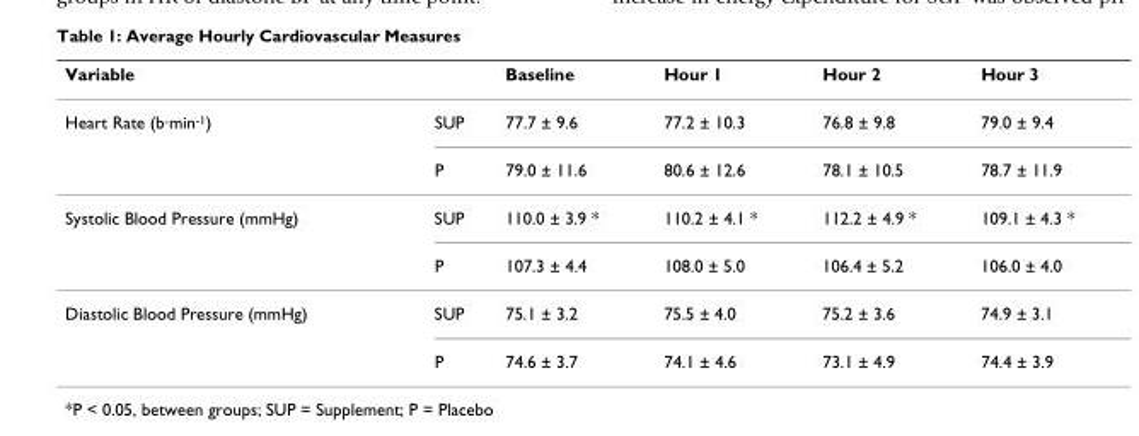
<table><thead><tr><td>Variable</td><td></td><td>Baseline</td><td>Hour 1</td><td>Hour 2</td><td>Hour 3</td></tr></thead><tbody><tr><td rowspan="2">Heart Rate (b·min<sup>-1</sup>)</td><td>SUP</td><td>77.7 ± 9.6</td><td>77.2 ± 10.3</td><td>76.8 ± 9.8</td><td>79.0 ± 9.4</td></tr><tr><td>P</td><td>79.0 ± 11.6</td><td>80.6 ± 12.6</td><td>78.1 ± 10.5</td><td>78.7 ± 11.9</td></tr><tr><td rowspan="2">Systolic Blood Pressure (mmHg)</td><td>SUP</td><td>110.0 ± 3.9 *</td><td>110.2 ± 4.1 *</td><td>112.2 ± 4.9 *</td><td>109.1 ± 4.3 *</td></tr><tr><td>P</td><td>107.3 ± 4.4</td><td>108.0 ± 5.0</td><td>106.4 ± 5.2</td><td>106.0 ± 4.0</td></tr><tr><td rowspan="2">Diastolic Blood Pressure (mmHg)</td><td>SUP</td><td>75.1 ± 3.2</td><td>75.5 ± 4.0</td><td>75.2 ± 3.6</td><td>74.9 ± 3.1</td></tr><tr><td>P</td><td>74.6 ± 3.7</td><td>74.1 ± 4.6</td><td>73.1 ± 4.9</td><td>74.4 ± 3.9</td></tr></tbody></table>